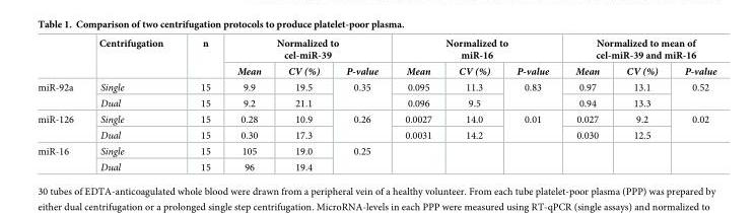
<table><thead><tr><td rowspan="2"></td><td rowspan="2">Centrifugation</td><td rowspan="2">n</td><td colspan="3">Normalized to cel-miR-39</td><td colspan="3">Normalized to miR-16</td><td colspan="3">Normalized to mean of cel-miR-39 and miR-16</td></tr><tr><td>Mean</td><td>CV (%)</td><td>P-value</td><td>Mean</td><td>CV (%)</td><td>P-value</td><td>Mean</td><td>CV (%)</td><td>P-value</td></tr></thead><tbody><tr><td rowspan="2">miR-92a</td><td>Single</td><td>15</td><td>9.9</td><td>19.5</td><td rowspan="2">0.35</td><td>0.095</td><td>11.3</td><td rowspan="2">0.83</td><td>0.97</td><td>13.1</td><td rowspan="2">0.52</td></tr><tr><td>Dual</td><td>15</td><td>9.2</td><td>21.1</td><td>0.096</td><td>9.5</td><td>0.94</td><td>13.3</td></tr><tr><td rowspan="2">miR-126</td><td>Single</td><td>15</td><td>0.28</td><td>10.9</td><td rowspan="2">0.26</td><td>0.0027</td><td>14.0</td><td rowspan="2">0.01</td><td>0.027</td><td>9.2</td><td rowspan="2">0.02</td></tr><tr><td>Dual</td><td>15</td><td>0.30</td><td>17.3</td><td>0.0031</td><td>14.2</td><td>0.030</td><td>12.5</td></tr><tr><td rowspan="2">miR-16</td><td>Single</td><td>15</td><td>105</td><td>19.0</td><td rowspan="2">0.25</td><td rowspan="2"></td><td rowspan="2"></td><td rowspan="2"></td><td rowspan="2"></td><td rowspan="2"></td><td rowspan="2"></td></tr><tr><td>Dual</td><td>15</td><td>96</td><td>19.4</td></tr></tbody></table>